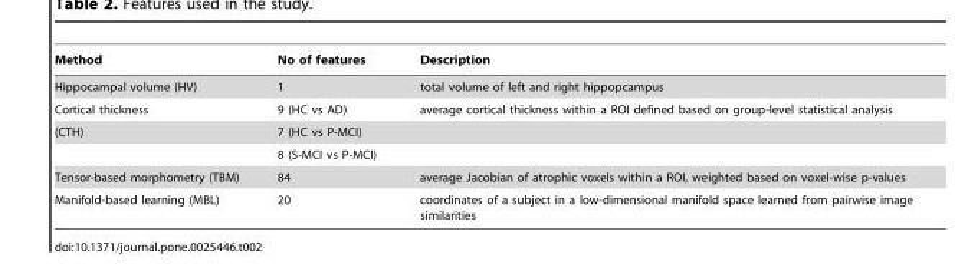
<table><thead><tr><td>Method</td><td>No of features</td><td>Description</td></tr></thead><tbody><tr><td>Hippocampal volume (HV)</td><td>1</td><td>total volume of left and right hippopcampus</td></tr><tr><td>Cortical thickness</td><td>9 (HC vs AD)</td><td>average cortical thickness within a ROI defined based on group-level statistical analysis</td></tr><tr><td rowspan="2">(CTH)</td><td>7 (HC vs P-MCI)</td><td></td></tr><tr><td>8 (S-MCI vs P-MCI)</td><td></td></tr><tr><td>Tensor-based morphometry (TBM)</td><td>84</td><td>average Jacobian of atrophic voxels within a ROI, weighted based on voxel-wise p-values</td></tr><tr><td>Manifold-based learning (MBL)</td><td>20</td><td>coordinates of a subject in a low-dimensional manifold space learned from pairwise image similarities</td></tr></tbody></table>